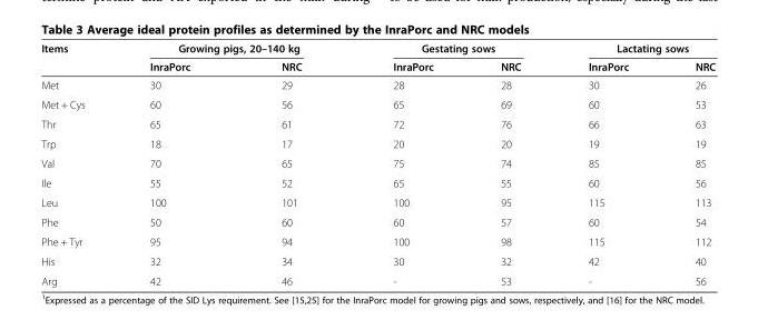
<table><thead><tr><td rowspan="2">Items</td><td colspan="2">Growing pigs, 20–140 kg</td><td colspan="2">Gestating sows</td><td colspan="2">Lactating sows</td></tr><tr><td>InraPorc</td><td>NRC</td><td>InraPorc</td><td>NRC</td><td>InraPorc</td><td>NRC</td></tr></thead><tbody><tr><td>Met</td><td>30</td><td>29</td><td>28</td><td>28</td><td>30</td><td>26</td></tr><tr><td>Met + Cys</td><td>60</td><td>56</td><td>65</td><td>69</td><td>60</td><td>53</td></tr><tr><td>Thr</td><td>65</td><td>61</td><td>72</td><td>76</td><td>66</td><td>63</td></tr><tr><td>Trp</td><td>18</td><td>17</td><td>20</td><td>20</td><td>19</td><td>19</td></tr><tr><td>Val</td><td>70</td><td>65</td><td>75</td><td>74</td><td>85</td><td>85</td></tr><tr><td>Ile</td><td>55</td><td>52</td><td>65</td><td>55</td><td>60</td><td>56</td></tr><tr><td>Leu</td><td>100</td><td>101</td><td>100</td><td>95</td><td>115</td><td>113</td></tr><tr><td>Phe</td><td>50</td><td>60</td><td>60</td><td>57</td><td>60</td><td>54</td></tr><tr><td>Phe + Tyr</td><td>95</td><td>94</td><td>100</td><td>98</td><td>115</td><td>112</td></tr><tr><td>His</td><td>32</td><td>34</td><td>30</td><td>32</td><td>42</td><td>40</td></tr><tr><td>Arg</td><td>42</td><td>46</td><td>-</td><td>53</td><td>-</td><td>56</td></tr></tbody></table>